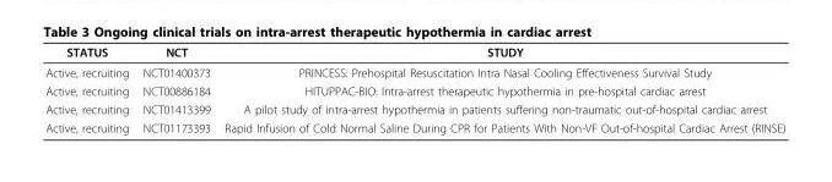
<table><thead><tr><td>STATUS</td><td>NCT</td><td>STUDY</td></tr></thead><tbody><tr><td>Active, recruiting</td><td>NCT01400373</td><td>PRINCESS: Prehospital Resuscitation Intra Nasal Cooling Effectiveness Survival Study</td></tr><tr><td>Active, recruiting</td><td>NCT00886184</td><td>HITUPPAC-BIO: Intra-arrest therapeutic hypothermia in pre-hospital cardiac arrest</td></tr><tr><td>Active, recruiting</td><td>NCT01413399</td><td>A pilot study of intra-arrest hypothermia in patients suffering non-traumatic out-of-hospital cardiac arrest</td></tr><tr><td>Active, recruiting</td><td>NCT01173393</td><td>Rapid Infusion of Cold Normal Saline During CPR for Patients With Non-VF Out-of-hospital Cardiac Arrest (RINSE)</td></tr></tbody></table>